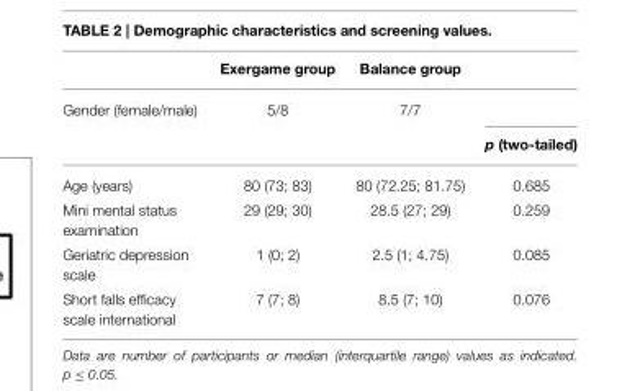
<table><thead><tr><td></td><td>Exergame group</td><td>Balance group</td><td></td></tr></thead><tbody><tr><td rowspan="2">Gender (female/male)</td><td>5/8</td><td>7/7</td><td></td></tr><tr><td></td><td></td><td>p (two-tailed)</td></tr><tr><td>Age (years)</td><td>80 (73; 83)</td><td>80 (72.25; 81.75)</td><td>0.685</td></tr><tr><td>Mini mental status examination</td><td>29 (29; 30)</td><td>28.5 (27; 29)</td><td>0.259</td></tr><tr><td>Geriatric depression scale</td><td>1 (0; 2)</td><td>2.5 (1; 4.75)</td><td>0.085</td></tr><tr><td>Short falls efficacy scale international</td><td>7 (7; 8)</td><td>8.5 (7; 10)</td><td>0.076</td></tr></tbody></table>